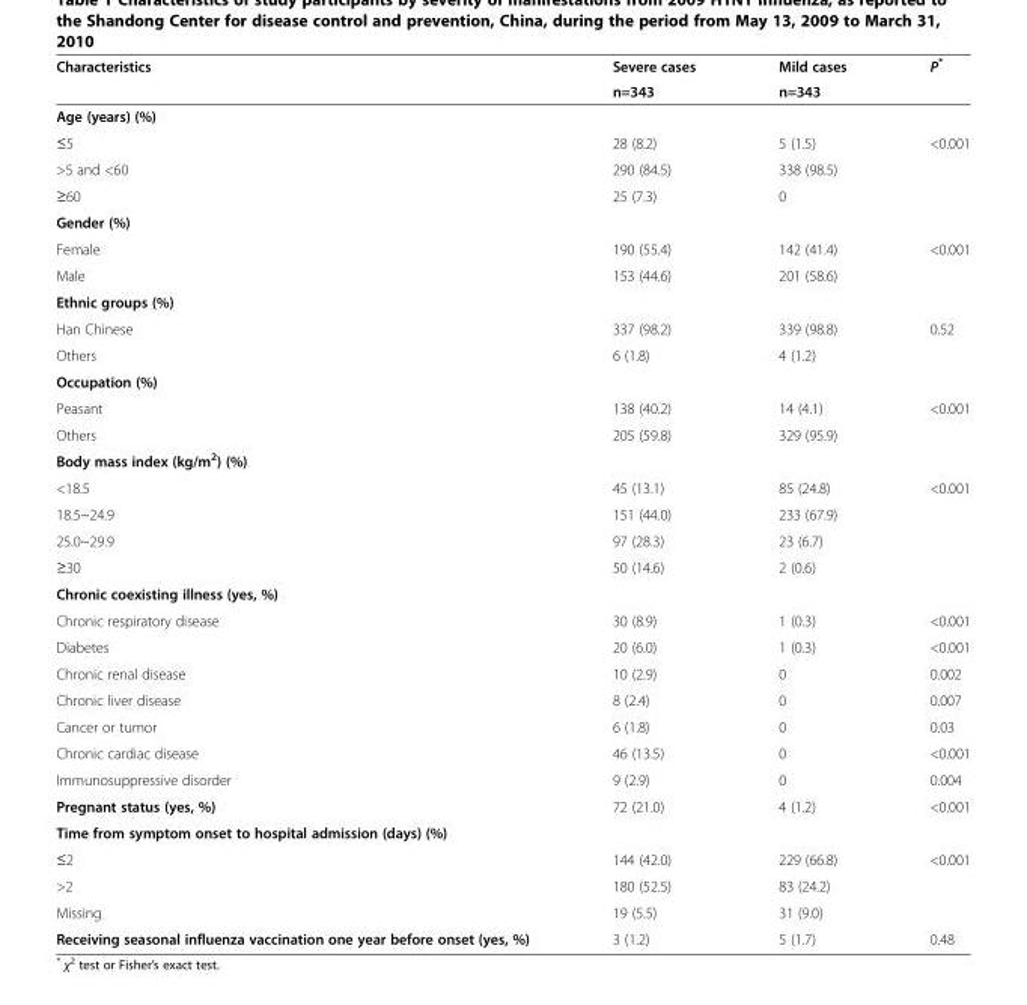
<table><thead><tr><td rowspan="2">Characteristics</td><td rowspan="2">Severe cases n=343</td><td rowspan="2">Mild cases n=343</td><td rowspan="2">P*</td></tr><tr></tr></thead><tbody><tr><td colspan="4">Age (years) (%)</td></tr><tr><td>≤5</td><td>28 (8.2)</td><td>5 (1.5)</td><td>&lt;0.001</td></tr><tr><td>&gt;5 and &lt;60</td><td>290 (84.5)</td><td>338 (98.5)</td><td></td></tr><tr><td>≥60</td><td>25 (7.3)</td><td>0</td><td></td></tr><tr><td colspan="4">Gender (%)</td></tr><tr><td>Female</td><td>190 (55.4)</td><td>142 (41.4)</td><td>&lt;0.001</td></tr><tr><td>Male</td><td>153 (44.6)</td><td>201 (58.6)</td><td></td></tr><tr><td colspan="4">Ethnic groups (%)</td></tr><tr><td>Han Chinese</td><td>337 (98.2)</td><td>339 (98.8)</td><td>0.52</td></tr><tr><td>Others</td><td>6 (1.8)</td><td>4 (1.2)</td><td></td></tr><tr><td colspan="4">Occupation (%)</td></tr><tr><td>Peasant</td><td>138 (40.2)</td><td>14 (4.1)</td><td>&lt;0.001</td></tr><tr><td>Others</td><td>205 (59.8)</td><td>329 (95.9)</td><td></td></tr><tr><td colspan="4">Body mass index (kg/m<sup>2</sup>) (%)</td></tr><tr><td>&lt;18.5</td><td>45 (13.1)</td><td>85 (24.8)</td><td>&lt;0.001</td></tr><tr><td>18.5~24.9</td><td>151 (44.0)</td><td>233 (67.9)</td><td></td></tr><tr><td>25.0~29.9</td><td>97 (28.3)</td><td>23 (6.7)</td><td></td></tr><tr><td>≥30</td><td>50 (14.6)</td><td>2 (0.6)</td><td></td></tr><tr><td colspan="4">Chronic coexisting illness (yes, %)</td></tr><tr><td>Chronic respiratory disease</td><td>30 (8.9)</td><td>1 (0.3)</td><td>&lt;0.001</td></tr><tr><td>Diabetes</td><td>20 (6.0)</td><td>1 (0.3)</td><td>&lt;0.001</td></tr><tr><td>Chronic renal disease</td><td>10 (2.9)</td><td>0</td><td>0.002</td></tr><tr><td>Chronic liver disease</td><td>8 (2.4)</td><td>0</td><td>0.007</td></tr><tr><td>Cancer or tumor</td><td>6 (1.8)</td><td>0</td><td>0.03</td></tr><tr><td>Chronic cardiac disease</td><td>46 (13.5)</td><td>0</td><td>&lt;0.001</td></tr><tr><td>Immunosuppressive disorder</td><td>9 (2.9)</td><td>0</td><td>0.004</td></tr><tr><td>Pregnant status (yes, %)</td><td>72 (21.0)</td><td>4 (1.2)</td><td>&lt;0.001</td></tr><tr><td colspan="4">Time from symptom onset to hospital admission (days) (%)</td></tr><tr><td>≤2</td><td>144 (42.0)</td><td>229 (66.8)</td><td>&lt;0.001</td></tr><tr><td>&gt;2</td><td>180 (52.5)</td><td>83 (24.2)</td><td></td></tr><tr><td>Missing</td><td>19 (5.5)</td><td>31 (9.0)</td><td></td></tr><tr><td>Receiving seasonal influenza vaccination one year before onset (yes, %)</td><td>3 (1.2)</td><td>5 (1.7)</td><td>0.48</td></tr></tbody></table>